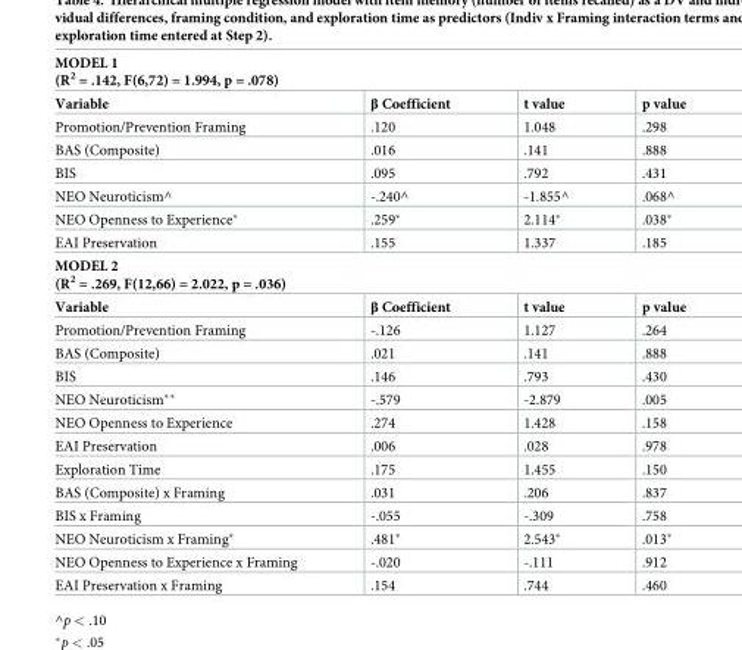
<table><tbody><tr><td colspan="4">MODEL 1 (R<sup>2</sup> = .142, F(6,72) = 1.994, p = .078)</td></tr><tr><td>Variable</td><td>β Coefficient</td><td>t value</td><td>p value</td></tr><tr><td>Promotion/Prevention Framing</td><td>.120</td><td>1.048</td><td>.298</td></tr><tr><td>BAS (Composite)</td><td>.016</td><td>.141</td><td>.888</td></tr><tr><td>BIS</td><td>.095</td><td>.792</td><td>.431</td></tr><tr><td>NEO Neuroticism^</td><td>-.240^</td><td>-1.855^</td><td>.068^</td></tr><tr><td>NEO Openness to Experience*</td><td>.259*</td><td>2.114*</td><td>.038*</td></tr><tr><td>EAI Preservation</td><td>.155</td><td>1.337</td><td>.185</td></tr><tr><td colspan="4">MODEL 2 (R<sup>2</sup> = .269, F(12,66) = 2.022, p = .036)</td></tr><tr><td>Variable</td><td>β Coefficient</td><td>t value</td><td>p value</td></tr><tr><td>Promotion/Prevention Framing</td><td>-.126</td><td>1.127</td><td>.264</td></tr><tr><td>BAS (Composite)</td><td>.021</td><td>.141</td><td>.888</td></tr><tr><td>BIS</td><td>.146</td><td>.793</td><td>.430</td></tr><tr><td>NEO Neuroticism**</td><td>-.579</td><td>-2.879</td><td>.005</td></tr><tr><td>NEO Openness to Experience</td><td>.274</td><td>1.428</td><td>.158</td></tr><tr><td>EAI Preservation</td><td>.006</td><td>.028</td><td>.978</td></tr><tr><td>Exploration Time</td><td>.175</td><td>1.455</td><td>.150</td></tr><tr><td>BAS (Composite) x Framing</td><td>.031</td><td>.206</td><td>.837</td></tr><tr><td>BIS x Framing</td><td>-.055</td><td>-.309</td><td>.758</td></tr><tr><td>NEO Neuroticism x Framing*</td><td>.481*</td><td>2.543*</td><td>.013*</td></tr><tr><td>NEO Openness to Experience x Framing</td><td>-.020</td><td>-.111</td><td>.912</td></tr><tr><td>EAI Preservation x Framing</td><td>.154</td><td>.744</td><td>.460</td></tr></tbody></table>